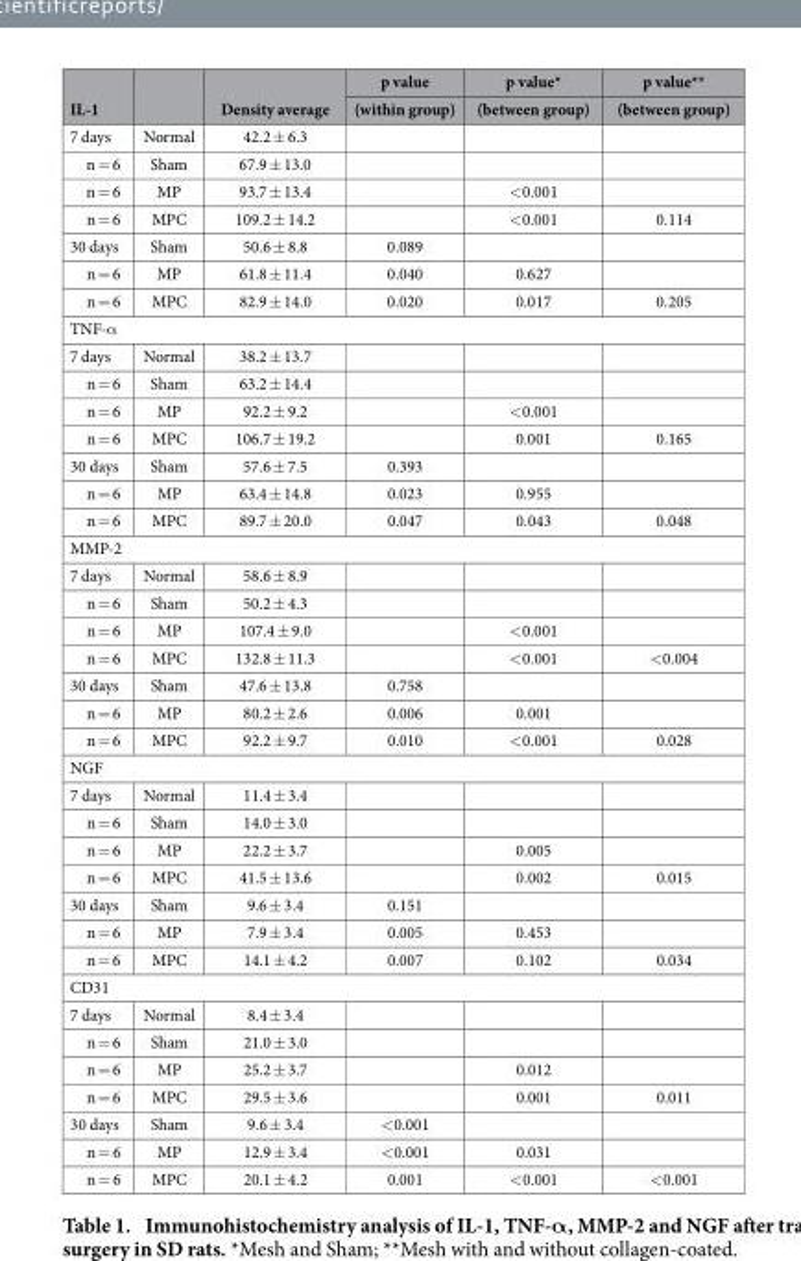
<table><thead><tr><td rowspan="2">IL-1</td><td rowspan="2"></td><td rowspan="2">Density average</td><td rowspan="2">p value (within group)</td><td rowspan="2">p value* (between group)</td><td rowspan="2">p value** (between group)</td></tr><tr></tr></thead><tbody><tr><td>7 days</td><td>Normal</td><td>42.2 ± 6.3</td><td></td><td></td><td></td></tr><tr><td>n = 6</td><td>Sham</td><td>67.9 ± 13.0</td><td></td><td></td><td></td></tr><tr><td>n = 6</td><td>MP</td><td>93.7 ± 13.4</td><td></td><td>&lt; 0.001</td><td></td></tr><tr><td>n = 6</td><td>MPC</td><td>109.2 ± 14.2</td><td></td><td>&lt; 0.001</td><td>0.114</td></tr><tr><td>30 days</td><td>Sham</td><td>50.6 ± 8.8</td><td>0.089</td><td></td><td></td></tr><tr><td>n = 6</td><td>MP</td><td>61.8 ± 11.4</td><td>0.040</td><td>0.627</td><td></td></tr><tr><td>n = 6</td><td>MPC</td><td>82.9 ± 14.0</td><td>0.020</td><td>0.017</td><td>0.205</td></tr><tr><td colspan="6">TNF-α</td></tr><tr><td>7 days</td><td>Normal</td><td>38.2 ± 13.7</td><td></td><td></td><td></td></tr><tr><td>n = 6</td><td>Sham</td><td>63.2 ± 14.4</td><td></td><td></td><td></td></tr><tr><td>n = 6</td><td>MP</td><td>92.2 ± 9.2</td><td></td><td>&lt; 0.001</td><td></td></tr><tr><td>n = 6</td><td>MPC</td><td>106.7 ± 19.2</td><td></td><td>0.001</td><td>0.165</td></tr><tr><td>30 days</td><td>Sham</td><td>57.6 ± 7.5</td><td>0.393</td><td></td><td></td></tr><tr><td>n = 6</td><td>MP</td><td>63.4 ± 14.8</td><td>0.023</td><td>0.955</td><td></td></tr><tr><td>n = 6</td><td>MPC</td><td>89.7 ± 20.0</td><td>0.047</td><td>0.043</td><td>0.048</td></tr><tr><td colspan="6">MMP-2</td></tr><tr><td>7 days</td><td>Normal</td><td>58.6 ± 8.9</td><td></td><td></td><td></td></tr><tr><td>n = 6</td><td>Sham</td><td>50.2 ± 4.3</td><td></td><td></td><td></td></tr><tr><td>n = 6</td><td>MP</td><td>107.4 ± 9.0</td><td></td><td>&lt; 0.001</td><td></td></tr><tr><td>n = 6</td><td>MPC</td><td>132.8 ± 11.3</td><td></td><td>&lt; 0.001</td><td>&lt; 0.004</td></tr><tr><td>30 days</td><td>Sham</td><td>47.6 ± 13.8</td><td>0.758</td><td></td><td></td></tr><tr><td>n = 6</td><td>MP</td><td>80.2 ± 2.6</td><td>0.006</td><td>0.001</td><td></td></tr><tr><td>n = 6</td><td>MPC</td><td>92.2 ± 9.7</td><td>0.010</td><td>&lt; 0.001</td><td>0.028</td></tr><tr><td colspan="6">NGF</td></tr><tr><td>7 days</td><td>Normal</td><td>11.4 ± 3.4</td><td></td><td></td><td></td></tr><tr><td>n = 6</td><td>Sham</td><td>14.0 ± 3.0</td><td></td><td></td><td></td></tr><tr><td>n = 6</td><td>MP</td><td>22.2 ± 3.7</td><td></td><td>0.005</td><td></td></tr><tr><td>n = 6</td><td>MPC</td><td>41.5 ± 13.6</td><td></td><td>0.002</td><td>0.015</td></tr><tr><td>30 days</td><td>Sham</td><td>9.6 ± 3.4</td><td>0.151</td><td></td><td></td></tr><tr><td>n = 6</td><td>MP</td><td>7.9 ± 3.4</td><td>0.005</td><td>0.453</td><td></td></tr><tr><td>n = 6</td><td>MPC</td><td>14.1 ± 4.2</td><td>0.007</td><td>0.102</td><td>0.034</td></tr><tr><td colspan="6">CD31</td></tr><tr><td>7 days</td><td>Normal</td><td>8.4 ± 3.4</td><td></td><td></td><td></td></tr><tr><td>n = 6</td><td>Sham</td><td>21.0 ± 3.0</td><td></td><td></td><td></td></tr><tr><td>n = 6</td><td>MP</td><td>25.2 ± 3.7</td><td></td><td>0.012</td><td></td></tr><tr><td>n = 6</td><td>MPC</td><td>29.5 ± 3.6</td><td></td><td>0.001</td><td>0.011</td></tr><tr><td>30 days</td><td>Sham</td><td>9.6 ± 3.4</td><td>&lt; 0.001</td><td></td><td></td></tr><tr><td>n = 6</td><td>MP</td><td>12.9 ± 3.4</td><td>&lt; 0.001</td><td>0.031</td><td></td></tr><tr><td>n = 6</td><td>MPC</td><td>20.1 ± 4.2</td><td>0.001</td><td>&lt; 0.001</td><td>&lt; 0.001</td></tr></tbody></table>